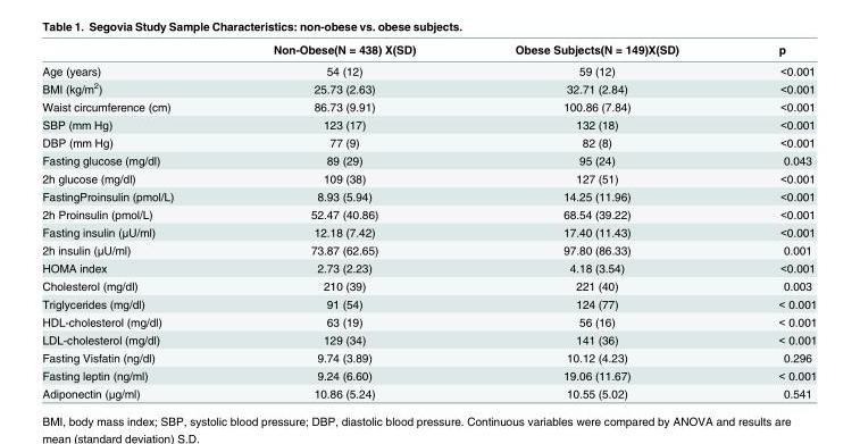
<table><thead><tr><td></td><td>Non-Obese(N = 438) X(SD)</td><td>Obese Subjects(N = 149)X(SD)</td><td>p</td></tr></thead><tbody><tr><td>Age (years)</td><td>54 (12)</td><td>59 (12)</td><td>&lt;0.001</td></tr><tr><td>BMI (kg/m<sup>2</sup>)</td><td>25.73 (2.63)</td><td>32.71 (2.84)</td><td>&lt;0.001</td></tr><tr><td>Waist circumference (cm)</td><td>86.73 (9.91)</td><td>100.86 (7.84)</td><td>&lt;0.001</td></tr><tr><td>SBP (mm Hg)</td><td>123 (17)</td><td>132 (18)</td><td>&lt;0.001</td></tr><tr><td>DBP (mm Hg)</td><td>77 (9)</td><td>82 (8)</td><td>&lt;0.001</td></tr><tr><td>Fasting glucose (mg/dl)</td><td>89 (29)</td><td>95 (24)</td><td>0.043</td></tr><tr><td>2h glucose (mg/dl)</td><td>109 (38)</td><td>127 (51)</td><td>&lt;0.001</td></tr><tr><td>FastingProinsulin (pmol/L)</td><td>8.93 (5.94)</td><td>14.25 (11.96)</td><td>&lt;0.001</td></tr><tr><td>2h Proinsulin (pmol/L)</td><td>52.47 (40.86)</td><td>68.54 (39.22)</td><td>&lt;0.001</td></tr><tr><td>Fasting insulin (μU/ml)</td><td>12.18 (7.42)</td><td>17.40 (11.43)</td><td>&lt;0.001</td></tr><tr><td>2h insulin (μU/ml)</td><td>73.87 (62.65)</td><td>97.80 (86.33)</td><td>0.001</td></tr><tr><td>HOMA index</td><td>2.73 (2.23)</td><td>4.18 (3.54)</td><td>&lt;0.001</td></tr><tr><td>Cholesterol (mg/dl)</td><td>210 (39)</td><td>221 (40)</td><td>0.003</td></tr><tr><td>Triglycerides (mg/dl)</td><td>91 (54)</td><td>124 (77)</td><td>&lt; 0.001</td></tr><tr><td>HDL-cholesterol (mg/dl)</td><td>63 (19)</td><td>56 (16)</td><td>&lt; 0.001</td></tr><tr><td>LDL-cholesterol (mg/dl)</td><td>129 (34)</td><td>141 (36)</td><td>&lt; 0.001</td></tr><tr><td>Fasting Visfatin (ng/dl)</td><td>9.74 (3.89)</td><td>10.12 (4.23)</td><td>0.296</td></tr><tr><td>Fasting leptin (ng/ml)</td><td>9.24 (6.60)</td><td>19.06 (11.67)</td><td>&lt; 0.001</td></tr><tr><td>Adiponectin (μg/ml)</td><td>10.86 (5.24)</td><td>10.55 (5.02)</td><td>0.541</td></tr></tbody></table>